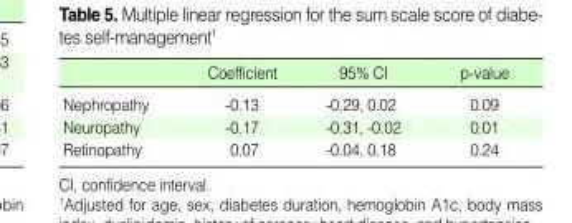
<table><thead><tr><td></td><td>Coefficient</td><td>95% CI</td><td>p-value</td></tr></thead><tbody><tr><td>Nephropathy</td><td>-0.13</td><td>-0.29, 0.02</td><td>0.09</td></tr><tr><td>Neuropathy</td><td>-0.17</td><td>-0.31, -0.02</td><td>0.01</td></tr><tr><td>Retinopathy</td><td>0.07</td><td>-0.04, 0.18</td><td>0.24</td></tr></tbody></table>